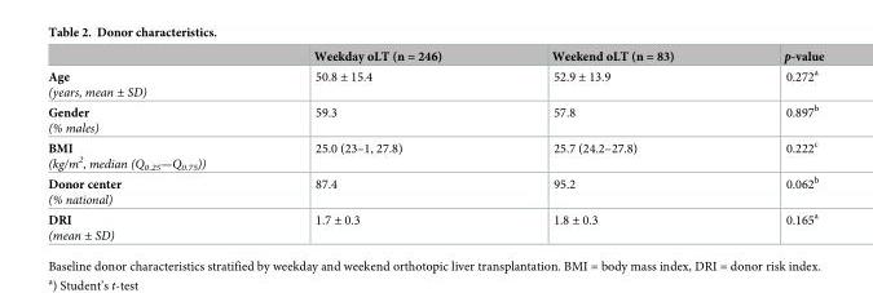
<table><thead><tr><td></td><td>Weekday oLT (n = 246)</td><td>Weekend oLT (n = 83)</td><td>p-value</td></tr></thead><tbody><tr><td>Age (years, mean ± SD)</td><td>50.8 ± 15.4</td><td>52.9 ± 13.9</td><td>0.272<sup>a</sup></td></tr><tr><td>Gender (% males)</td><td>59.3</td><td>57.8</td><td>0.897<sup>b</sup></td></tr><tr><td>BMI (kg/m<sup>2</sup>, median (Q<sub>0.25</sub>—Q<sub>0.75</sub>))</td><td>25.0 (23–1, 27.8)</td><td>25.7 (24.2–27.8)</td><td>0.222<sup>c</sup></td></tr><tr><td>Donor center (% national)</td><td>87.4</td><td>95.2</td><td>0.062<sup>b</sup></td></tr><tr><td>DRI (mean ± SD)</td><td>1.7 ± 0.3</td><td>1.8 ± 0.3</td><td>0.165<sup>a</sup></td></tr></tbody></table>